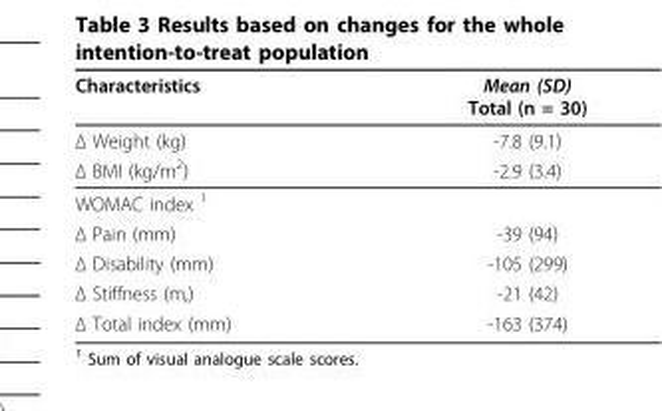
<table><thead><tr><td>Characteristics</td><td>Mean (SD) Total (n = 30)</td></tr></thead><tbody><tr><td>Δ Weight (kg)</td><td>-7.8 (9.1)</td></tr><tr><td>Δ BMI (kg/m<sup>2</sup>)</td><td>-2.9 (3.4)</td></tr><tr><td colspan="2">WOMAC index <sup>1</sup></td></tr><tr><td>Δ Pain (mm)</td><td>-39 (94)</td></tr><tr><td>Δ Disability (mm)</td><td>-105 (299)</td></tr><tr><td>Δ Stiffness (m,)</td><td>-21 (42)</td></tr><tr><td>Δ Total index (mm)</td><td>-163 (374)</td></tr></tbody></table>